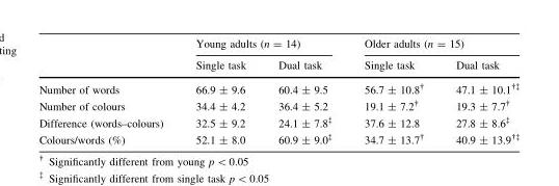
<table><thead><tr><td rowspan="2"></td><td colspan="2">Young adults (n = 14)</td><td colspan="2">Older adults (n = 15)</td></tr><tr><td>Single task</td><td>Dual task</td><td>Single task</td><td>Dual task</td></tr></thead><tbody><tr><td>Number of words</td><td>66.9 ± 9.6</td><td>60.4 ± 9.5</td><td>56.7 ± 10.8<sup>†</sup></td><td>47.1 ± 10.1<sup>†‡</sup></td></tr><tr><td>Number of colours</td><td>34.4 ± 4.2</td><td>36.4 ± 5.2</td><td>19.1 ± 7.2<sup>†</sup></td><td>19.3 ± 7.7<sup>†</sup></td></tr><tr><td>Difference (words–colours)</td><td>32.5 ± 9.2</td><td>24.1 ± 7.8<sup>‡</sup></td><td>37.6 ± 12.8</td><td>27.8 ± 8.6<sup>‡</sup></td></tr><tr><td>Colours/words (%)</td><td>52.1 ± 8.0</td><td>60.9 ± 9.0<sup>‡</sup></td><td>34.7 ± 13.7<sup>†</sup></td><td>40.9 ± 13.9<sup>†‡</sup></td></tr></tbody></table>